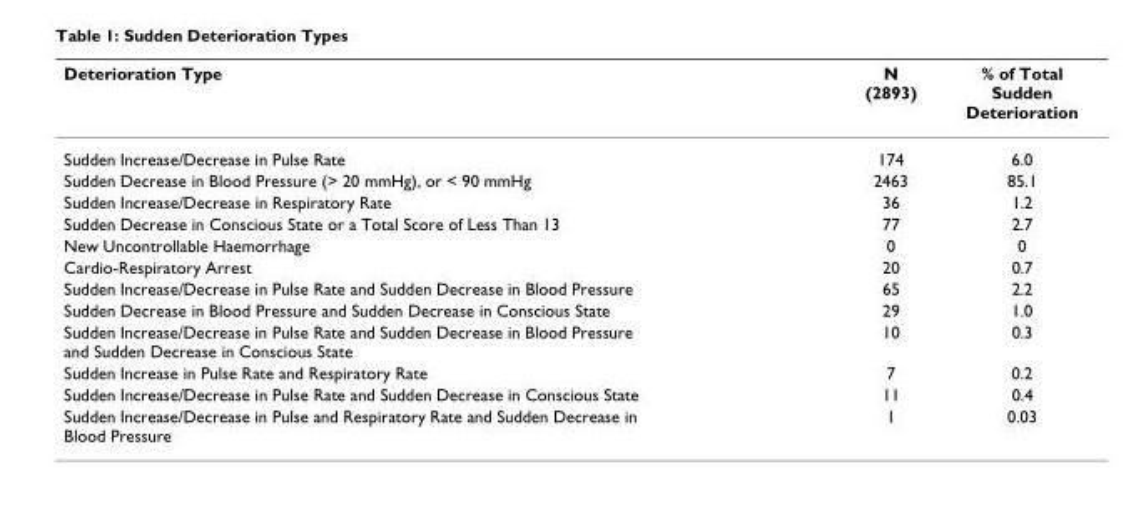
<table><thead><tr><td>Deterioration Type</td><td>N (2893)</td><td>% of Total Sudden Deterioration</td></tr></thead><tbody><tr><td>Sudden Increase/Decrease in Pulse Rate</td><td>174</td><td>6.0</td></tr><tr><td>Sudden Decrease in Blood Pressure (&gt; 20 mmHg), or &lt; 90 mmHg</td><td>2463</td><td>85.1</td></tr><tr><td>Sudden Increase/Decrease in Respiratory Rate</td><td>36</td><td>1.2</td></tr><tr><td>Sudden Decrease in Conscious State or a Total Score of Less Than 13</td><td>77</td><td>2.7</td></tr><tr><td>New Uncontrollable Haemorrhage</td><td>0</td><td>0</td></tr><tr><td>Cardio-Respiratory Arrest</td><td>20</td><td>0.7</td></tr><tr><td>Sudden Increase/Decrease in Pulse Rate and Sudden Decrease in Blood Pressure</td><td>65</td><td>2.2</td></tr><tr><td>Sudden Decrease in Blood Pressure and Sudden Decrease in Conscious State</td><td>29</td><td>1.0</td></tr><tr><td>Sudden Increase/Decrease in Pulse Rate and Sudden Decrease in Blood Pressure and Sudden Decrease in Conscious State</td><td>10</td><td>0.3</td></tr><tr><td>Sudden Increase in Pulse Rate and Respiratory Rate</td><td>7</td><td>0.2</td></tr><tr><td>Sudden Increase/Decrease in Pulse Rate and Sudden Decrease in Conscious State</td><td>11</td><td>0.4</td></tr><tr><td>Sudden Increase/Decrease in Pulse and Respiratory Rate and Sudden Decrease in Blood Pressure</td><td>1</td><td>0.03</td></tr></tbody></table>